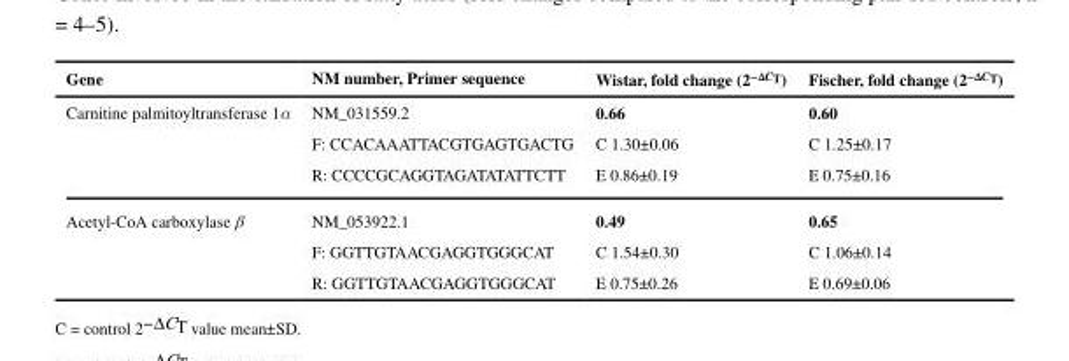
<table><thead><tr><td>Gene</td><td>NM number, Primer sequence</td><td>Wistar, fold change (2<sup>−ΔC<sub>T</sub></sup>)</td><td>Fischer, fold change (2<sup>−ΔC<sub>T</sub></sup>)</td></tr></thead><tbody><tr><td rowspan="3">Carnitine palmitoyltransferase 1α</td><td>NM_031559.2</td><td>0.66</td><td>0.60</td></tr><tr><td>F: CCACAAATTACGTGAGTGACTG</td><td>C 1.30±0.06</td><td>C 1.25±0.17</td></tr><tr><td>R: CCCCGCAGGTAGATATATTCTT</td><td>E 0.86±0.19</td><td>E 0.75±0.16</td></tr><tr><td rowspan="3">Acetyl-CoA carboxylase β</td><td>NM_053922.1</td><td>0.49</td><td>0.65</td></tr><tr><td>F: GGTTGTAACGAGGTGGGCAT</td><td>C 1.54±0.30</td><td>C 1.06±0.14</td></tr><tr><td>R: GGTTGTAACGAGGTGGGCAT</td><td>E 0.75±0.26</td><td>E 0.69±0.06</td></tr></tbody></table>